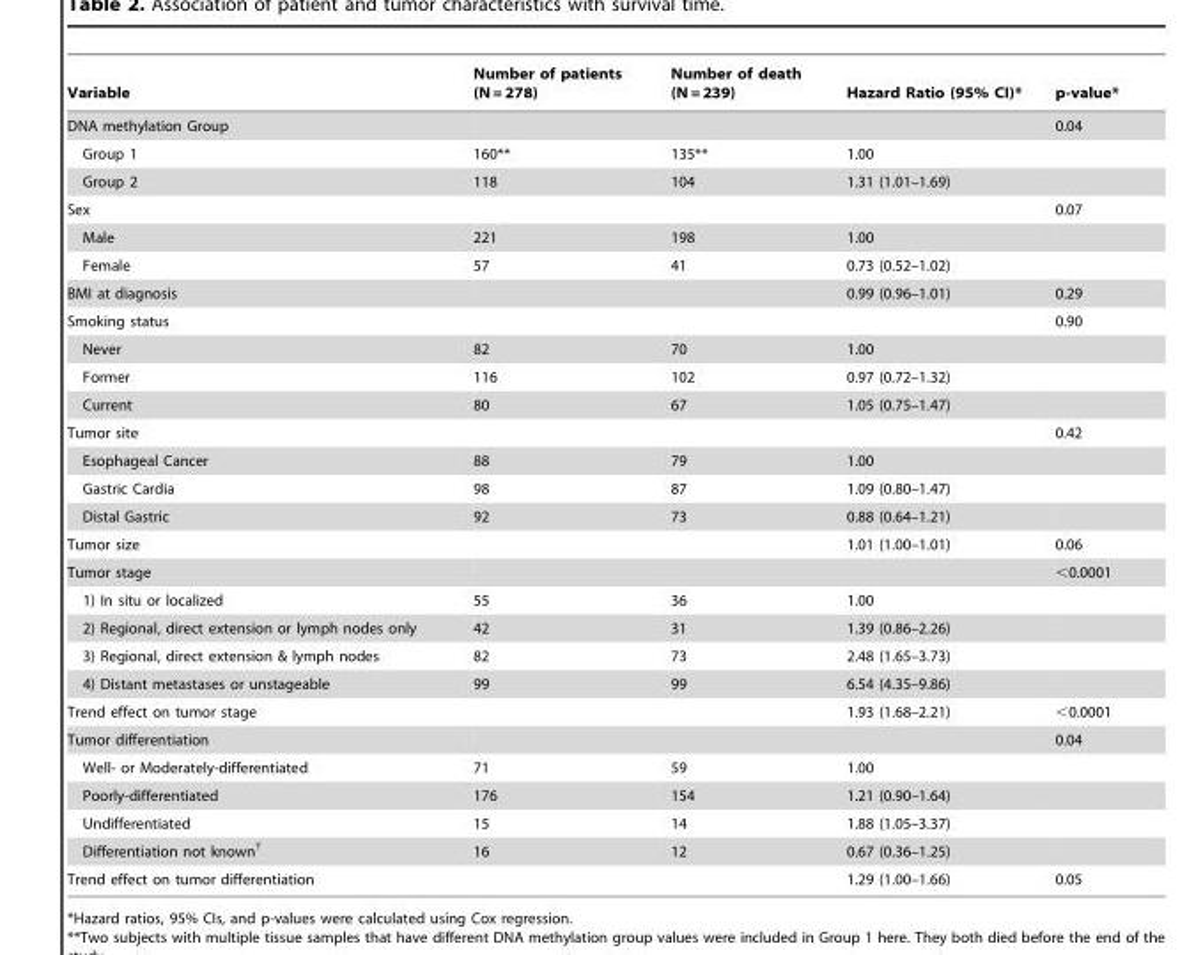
<table><thead><tr><td>Variable</td><td>Number of patients (N = 278)</td><td>Number of death (N = 239)</td><td>Hazard Ratio (95% CI)*</td><td>p-value*</td></tr></thead><tbody><tr><td>DNA methylation Group</td><td></td><td></td><td></td><td>0.04</td></tr><tr><td>Group 1</td><td>160**</td><td>135**</td><td>1.00</td><td></td></tr><tr><td>Group 2</td><td>118</td><td>104</td><td>1.31 (1.01–1.69)</td><td></td></tr><tr><td>Sex</td><td></td><td></td><td></td><td>0.07</td></tr><tr><td>Male</td><td>221</td><td>198</td><td>1.00</td><td></td></tr><tr><td>Female</td><td>57</td><td>41</td><td>0.73 (0.52–1.02)</td><td></td></tr><tr><td>BMI at diagnosis</td><td></td><td></td><td>0.99 (0.96–1.01)</td><td>0.29</td></tr><tr><td>Smoking status</td><td></td><td></td><td></td><td>0.90</td></tr><tr><td>Never</td><td>82</td><td>70</td><td>1.00</td><td></td></tr><tr><td>Former</td><td>116</td><td>102</td><td>0.97 (0.72–1.32)</td><td></td></tr><tr><td>Current</td><td>80</td><td>67</td><td>1.05 (0.75–1.47)</td><td></td></tr><tr><td>Tumor site</td><td></td><td></td><td></td><td>0.42</td></tr><tr><td>Esophageal Cancer</td><td>88</td><td>79</td><td>1.00</td><td></td></tr><tr><td>Gastric Cardia</td><td>98</td><td>87</td><td>1.09 (0.80–1.47)</td><td></td></tr><tr><td>Distal Gastric</td><td>92</td><td>73</td><td>0.88 (0.64–1.21)</td><td></td></tr><tr><td>Tumor size</td><td></td><td></td><td>1.01 (1.00–1.01)</td><td>0.06</td></tr><tr><td>Tumor stage</td><td></td><td></td><td></td><td>&lt;0.0001</td></tr><tr><td>1) In situ or localized</td><td>55</td><td>36</td><td>1.00</td><td></td></tr><tr><td>2) Regional, direct extension or lymph nodes only</td><td>42</td><td>31</td><td>1.39 (0.86–2.26)</td><td></td></tr><tr><td>3) Regional, direct extension &amp; lymph nodes</td><td>82</td><td>73</td><td>2.48 (1.65–3.73)</td><td></td></tr><tr><td>4) Distant metastases or unstageable</td><td>99</td><td>99</td><td>6.54 (4.35–9.86)</td><td></td></tr><tr><td>Trend effect on tumor stage</td><td></td><td></td><td>1.93 (1.68–2.21)</td><td>&lt;0.0001</td></tr><tr><td>Tumor differentiation</td><td></td><td></td><td></td><td>0.04</td></tr><tr><td>Well- or Moderately-differentiated</td><td>71</td><td>59</td><td>1.00</td><td></td></tr><tr><td>Poorly-differentiated</td><td>176</td><td>154</td><td>1.21 (0.90–1.64)</td><td></td></tr><tr><td>Undifferentiated</td><td>15</td><td>14</td><td>1.88 (1.05–3.37)</td><td></td></tr><tr><td>Differentiation not known†</td><td>16</td><td>12</td><td>0.67 (0.36–1.25)</td><td></td></tr><tr><td>Trend effect on tumor differentiation</td><td></td><td></td><td>1.29 (1.00–1.66)</td><td>0.05</td></tr></tbody></table>